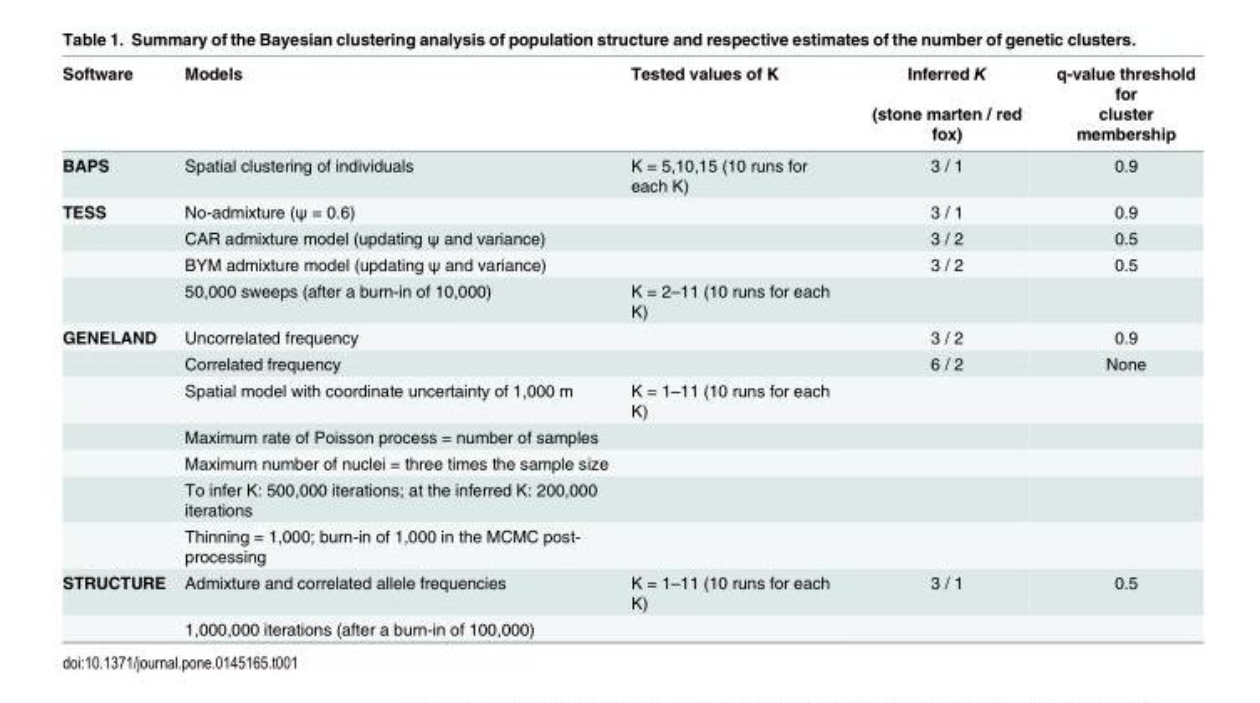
<table><thead><tr><td rowspan="2">Software</td><td rowspan="2">Models</td><td rowspan="2">Tested values of K</td><td rowspan="2">Inferred K (stone marten / red fox)</td><td rowspan="2">q-value threshold for cluster membership</td></tr><tr></tr></thead><tbody><tr><td>BAPS</td><td>Spatial clustering of individuals</td><td>K = 5,10,15 (10 runs for each K)</td><td>3 / 1</td><td>0.9</td></tr><tr><td rowspan="4">TESS</td><td>No-admixture (ψ = 0.6)</td><td></td><td>3 / 1</td><td>0.9</td></tr><tr><td>CAR admixture model (updating ψ and variance)</td><td></td><td>3 / 2</td><td>0.5</td></tr><tr><td>BYM admixture model (updating ψ and variance)</td><td></td><td>3 / 2</td><td>0.5</td></tr><tr><td>50,000 sweeps (after a burn-in of 10,000)</td><td>K = 2–11 (10 runs for each K)</td><td></td><td></td></tr><tr><td rowspan="7">GENELAND</td><td>Uncorrelated frequency</td><td></td><td>3 / 2</td><td>0.9</td></tr><tr><td>Correlated frequency</td><td></td><td>6 / 2</td><td>None</td></tr><tr><td>Spatial model with coordinate uncertainty of 1,000 m</td><td>K = 1–11 (10 runs for each K)</td><td></td><td></td></tr><tr><td>Maximum rate of Poisson process = number of samples</td><td></td><td></td><td></td></tr><tr><td>Maximum number of nuclei = three times the sample size</td><td></td><td></td><td></td></tr><tr><td>To infer K: 500,000 iterations; at the inferred K: 200,000 iterations</td><td></td><td></td><td></td></tr><tr><td>Thinning = 1,000; burn-in of 1,000 in the MCMC post- processing</td><td></td><td></td><td></td></tr><tr><td rowspan="2">STRUCTURE</td><td>Admixture and correlated allele frequencies</td><td>K = 1–11 (10 runs for each K)</td><td>3 / 1</td><td>0.5</td></tr><tr><td>1,000,000 iterations (after a burn-in of 100,000)</td><td></td><td></td><td></td></tr></tbody></table>